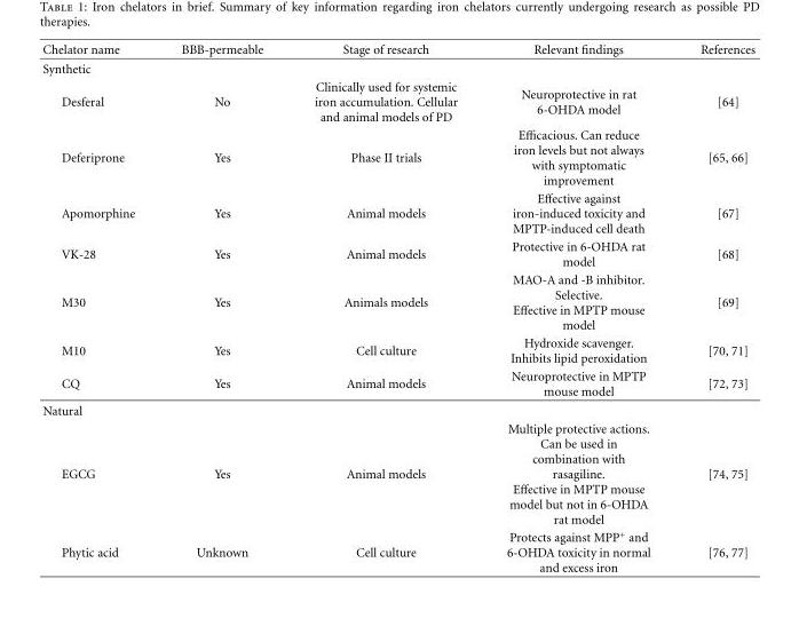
<table><thead><tr><td>Chelator name</td><td>BBB-permeable</td><td>Stage of research</td><td>Relevant findings</td><td>References</td></tr></thead><tbody><tr><td colspan="5">Synthetic</td></tr><tr><td>Desferal</td><td>No</td><td>Clinically used for systemic iron accumulation. Cellular and animal models of PD</td><td>Neuroprotective in rat 6-OHDA model</td><td>[64]</td></tr><tr><td>Deferiprone</td><td>Yes</td><td>Phase II trials</td><td>Efficacious. Can reduce iron levels but not always with symptomatic improvement</td><td>[65, 66]</td></tr><tr><td>Apomorphine</td><td>Yes</td><td>Animal models</td><td>Effective against iron-induced toxicity and MPTP-induced cell death</td><td>[67]</td></tr><tr><td>VK-28</td><td>Yes</td><td>Animal models</td><td>Protective in 6-OHDA rat model</td><td>[68]</td></tr><tr><td>M30</td><td>Yes</td><td>Animals models</td><td>MAO-A and -B inhibitor. Selective. Effective in MPTP mouse model</td><td>[69]</td></tr><tr><td>M10</td><td>Yes</td><td>Cell culture</td><td>Hydroxide scavenger. Inhibits lipid peroxidation</td><td>[70, 71]</td></tr><tr><td>CQ</td><td>Yes</td><td>Animal models</td><td>Neuroprotective in MPTP mouse model</td><td>[72, 73]</td></tr><tr><td colspan="5">Natural</td></tr><tr><td>EGCG</td><td>Yes</td><td>Animal models</td><td>Multiple protective actions. Can be used in combination with rasagiline. Effective in MPTP mouse model but not in 6-OHDA rat model</td><td>[74, 75]</td></tr><tr><td>Phytic acid</td><td>Unknown</td><td>Cell culture</td><td>Protects against MPP<sup>+</sup> and 6-OHDA toxicity in normal and excess iron</td><td>[76, 77]</td></tr></tbody></table>